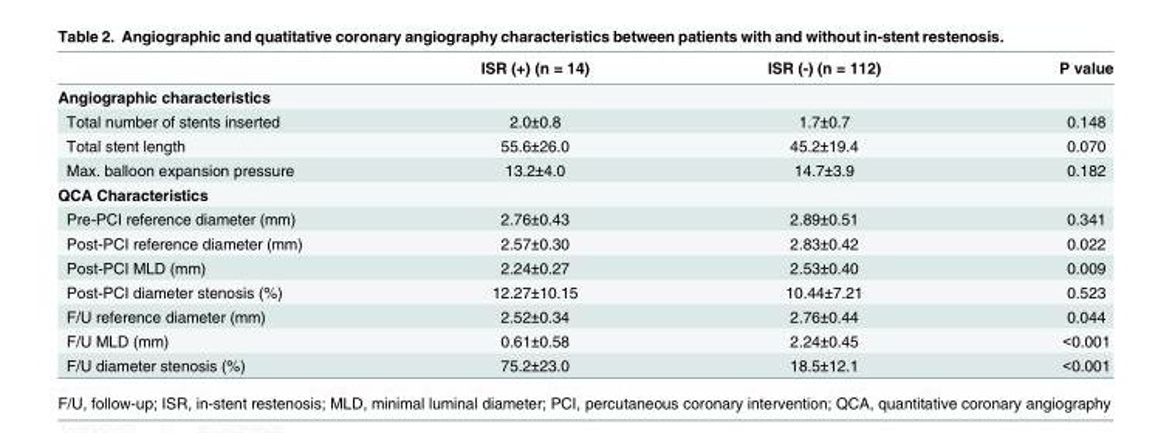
<table><thead><tr><td></td><td>ISR (+) (n = 14)</td><td>ISR (-) (n = 112)</td><td>P value</td></tr></thead><tbody><tr><td colspan="4">Angiographic characteristics</td></tr><tr><td>Total number of stents inserted</td><td>2.0±0.8</td><td>1.7±0.7</td><td>0.148</td></tr><tr><td>Total stent length</td><td>55.6±26.0</td><td>45.2±19.4</td><td>0.070</td></tr><tr><td>Max. balloon expansion pressure</td><td>13.2±4.0</td><td>14.7±3.9</td><td>0.182</td></tr><tr><td colspan="4">QCA Characteristics</td></tr><tr><td>Pre-PCI reference diameter (mm)</td><td>2.76±0.43</td><td>2.89±0.51</td><td>0.341</td></tr><tr><td>Post-PCI reference diameter (mm)</td><td>2.57±0.30</td><td>2.83±0.42</td><td>0.022</td></tr><tr><td>Post-PCI MLD (mm)</td><td>2.24±0.27</td><td>2.53±0.40</td><td>0.009</td></tr><tr><td>Post-PCI diameter stenosis (%)</td><td>12.27±10.15</td><td>10.44±7.21</td><td>0.523</td></tr><tr><td>F/U reference diameter (mm)</td><td>2.52±0.34</td><td>2.76±0.44</td><td>0.044</td></tr><tr><td>F/U MLD (mm)</td><td>0.61±0.58</td><td>2.24±0.45</td><td>&lt;0.001</td></tr><tr><td>F/U diameter stenosis (%)</td><td>75.2±23.0</td><td>18.5±12.1</td><td>&lt;0.001</td></tr></tbody></table>